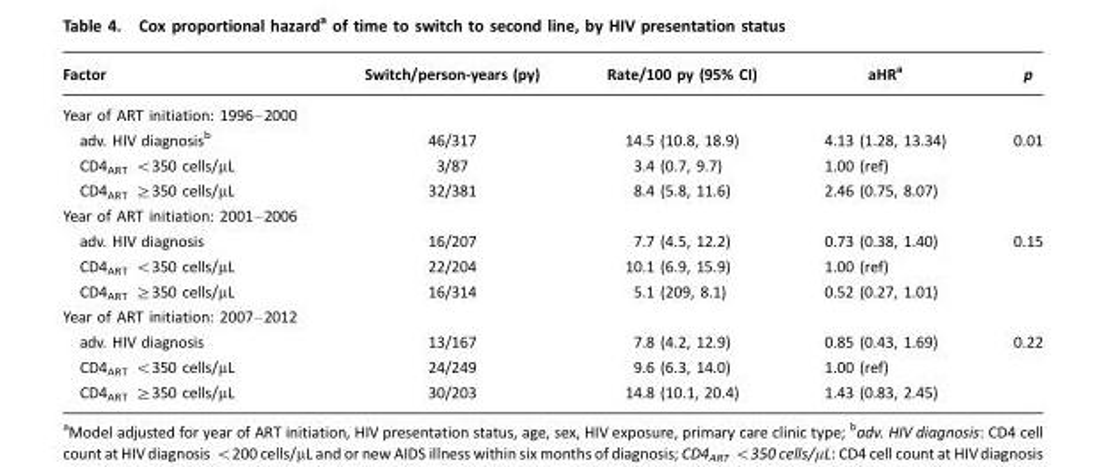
<table><thead><tr><td>Factor</td><td>Switch/person-years (py)</td><td>Rate/100 py (95% CI)</td><td>aHR<sup>a</sup></td><td>p</td></tr></thead><tbody><tr><td colspan="5">Year of ART initiation: 1996–2000</td></tr><tr><td>adv. HIV diagnosis<sup>b</sup></td><td>46/317</td><td>14.5 (10.8, 18.9)</td><td>4.13 (1.28, 13.34)</td><td>0.01</td></tr><tr><td>CD4<sub>ART</sub> &lt;350 cells/µL</td><td>3/87</td><td>3.4 (0.7, 9.7)</td><td>1.00 (ref)</td><td></td></tr><tr><td>CD4<sub>ART</sub> ≥350 cells/µL</td><td>32/381</td><td>8.4 (5.8, 11.6)</td><td>2.46 (0.75, 8.07)</td><td></td></tr><tr><td colspan="5">Year of ART initiation: 2001–2006</td></tr><tr><td>adv. HIV diagnosis</td><td>16/207</td><td>7.7 (4.5, 12.2)</td><td>0.73 (0.38, 1.40)</td><td>0.15</td></tr><tr><td>CD4<sub>ART</sub> &lt;350 cells/µL</td><td>22/204</td><td>10.1 (6.9, 15.9)</td><td>1.00 (ref)</td><td></td></tr><tr><td>CD4<sub>ART</sub> ≥350 cells/µL</td><td>16/314</td><td>5.1 (209, 8.1)</td><td>0.52 (0.27, 1.01)</td><td></td></tr><tr><td colspan="5">Year of ART initiation: 2007–2012</td></tr><tr><td>adv. HIV diagnosis</td><td>13/167</td><td>7.8 (4.2, 12.9)</td><td>0.85 (0.43, 1.69)</td><td>0.22</td></tr><tr><td>CD4<sub>ART</sub> &lt;350 cells/µL</td><td>24/249</td><td>9.6 (6.3, 14.0)</td><td>1.00 (ref)</td><td></td></tr><tr><td>CD4<sub>ART</sub> ≥350 cells/µL</td><td>30/203</td><td>14.8 (10.1, 20.4)</td><td>1.43 (0.83, 2.45)</td><td></td></tr></tbody></table>